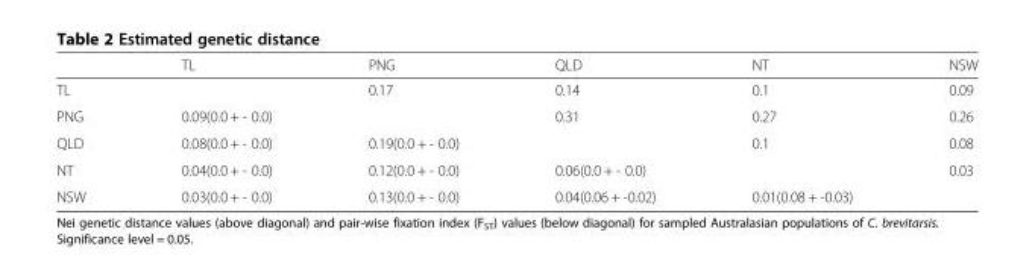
<table><thead><tr><td></td><td>TL</td><td>PNG</td><td>QLD</td><td>NT</td><td>NSW</td></tr></thead><tbody><tr><td>TL</td><td></td><td>0.17</td><td>0.14</td><td>0.1</td><td>0.09</td></tr><tr><td>PNG</td><td>0.09(0.0 + - 0.0)</td><td></td><td>0.31</td><td>0.27</td><td>0.26</td></tr><tr><td>QLD</td><td>0.08(0.0 + - 0.0)</td><td>0.19(0.0 + - 0.0)</td><td></td><td>0.1</td><td>0.08</td></tr><tr><td>NT</td><td>0.04(0.0 + - 0.0)</td><td>0.12(0.0 + - 0.0)</td><td>0.06(0.0 + - 0.0)</td><td></td><td>0.03</td></tr><tr><td>NSW</td><td>0.03(0.0 + - 0.0)</td><td>0.13(0.0 + - 0.0)</td><td>0.04(0.06 + -0.02)</td><td>0.01(0.08 + -0.03)</td><td></td></tr></tbody></table>